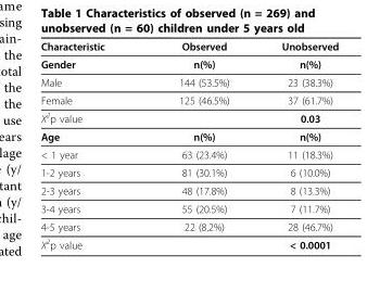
<table><thead><tr><td>Characteristic</td><td>Observed</td><td>Unobserved</td></tr></thead><tbody><tr><td>Gender</td><td>n(%)</td><td>n(%)</td></tr><tr><td>Male</td><td>144 (53.5%)</td><td>23 (38.3%)</td></tr><tr><td>Female</td><td>125 (46.5%)</td><td>37 (61.7%)</td></tr><tr><td>X<sup>2</sup>p value</td><td></td><td>0.03</td></tr><tr><td>Age</td><td>n(%)</td><td>n(%)</td></tr><tr><td>&lt; 1 year</td><td>63 (23.4%)</td><td>11 (18.3%)</td></tr><tr><td>1-2 years</td><td>81 (30.1%)</td><td>6 (10.0%)</td></tr><tr><td>2-3 years</td><td>48 (17.8%)</td><td>8 (13.3%)</td></tr><tr><td>3-4 years</td><td>55 (20.5%)</td><td>7 (11.7%)</td></tr><tr><td>4-5 years</td><td>22 (8.2%)</td><td>28 (46.7%)</td></tr><tr><td>X<sup>2</sup>p value</td><td></td><td>&lt; 0.0001</td></tr></tbody></table>